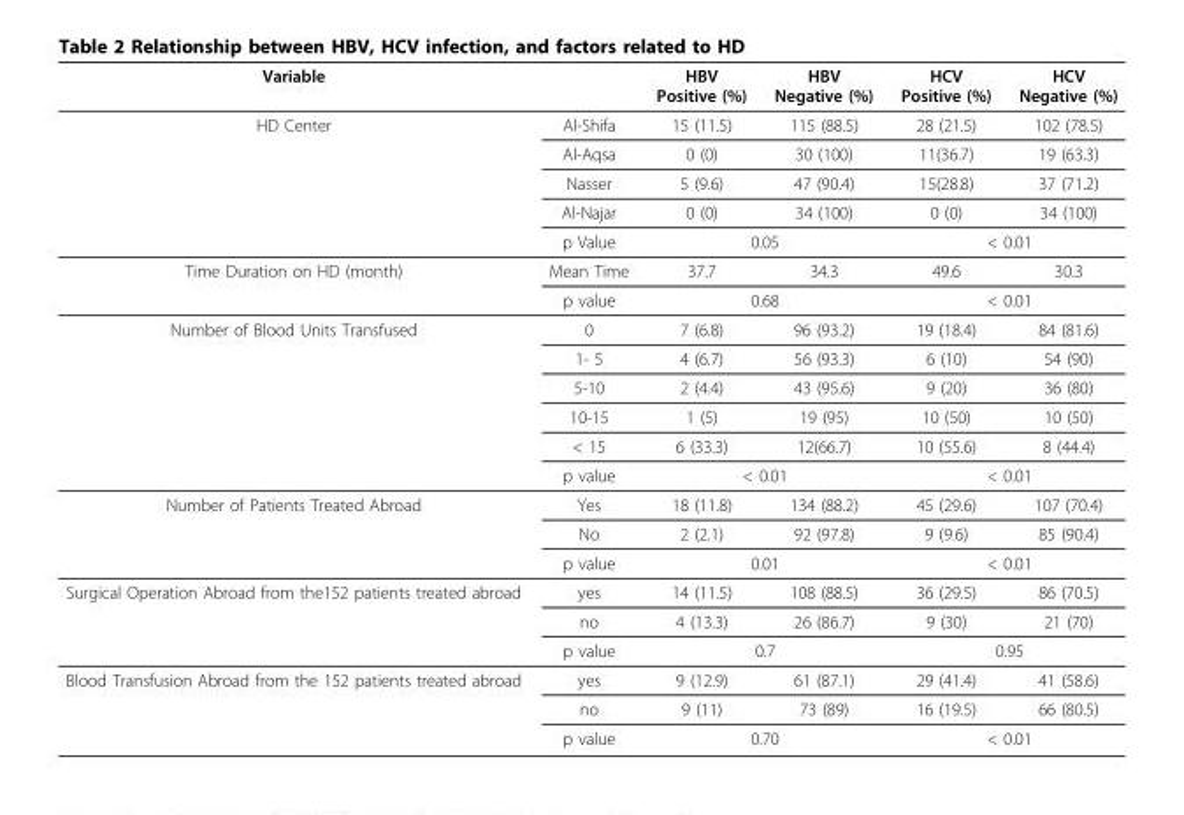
<table><thead><tr><td>Variable</td><td></td><td>HBV Positive (%)</td><td>HBV Negative (%)</td><td>HCV Positive (%)</td><td>HCV Negative (%)</td></tr></thead><tbody><tr><td rowspan="5">HD Center</td><td>Al-Shifa</td><td>15 (11.5)</td><td>115 (88.5)</td><td>28 (21.5)</td><td>102 (78.5)</td></tr><tr><td>Al-Aqsa</td><td>0 (0)</td><td>30 (100)</td><td>11(36.7)</td><td>19 (63.3)</td></tr><tr><td>Nasser</td><td>5 (9.6)</td><td>47 (90.4)</td><td>15(28.8)</td><td>37 (71.2)</td></tr><tr><td>Al-Najar</td><td>0 (0)</td><td>34 (100)</td><td>0 (0)</td><td>34 (100)</td></tr><tr><td>p Value</td><td colspan="2">0.05</td><td colspan="2">&lt; 0.01</td></tr><tr><td rowspan="2">Time Duration on HD (month)</td><td>Mean Time</td><td>37.7</td><td>34.3</td><td>49.6</td><td>30.3</td></tr><tr><td>p value</td><td colspan="2">0.68</td><td colspan="2">&lt; 0.01</td></tr><tr><td rowspan="6">Number of Blood Units Transfused</td><td>0</td><td>7 (6.8)</td><td>96 (93.2)</td><td>19 (18.4)</td><td>84 (81.6)</td></tr><tr><td>1- 5</td><td>4 (6.7)</td><td>56 (93.3)</td><td>6 (10)</td><td>54 (90)</td></tr><tr><td>5-10</td><td>2 (4.4)</td><td>43 (95.6)</td><td>9 (20)</td><td>36 (80)</td></tr><tr><td>10-15</td><td>1 (5)</td><td>19 (95)</td><td>10 (50)</td><td>10 (50)</td></tr><tr><td>&lt; 15</td><td>6 (33.3)</td><td>12(66.7)</td><td>10 (55.6)</td><td>8 (44.4)</td></tr><tr><td>p value</td><td colspan="2">&lt; 0.01</td><td colspan="2">&lt; 0.01</td></tr><tr><td rowspan="3">Number of Patients Treated Abroad</td><td>Yes</td><td>18 (11.8)</td><td>134 (88.2)</td><td>45 (29.6)</td><td>107 (70.4)</td></tr><tr><td>No</td><td>2 (2.1)</td><td>92 (97.8)</td><td>9 (9.6)</td><td>85 (90.4)</td></tr><tr><td>p value</td><td colspan="2">0.01</td><td colspan="2">&lt; 0.01</td></tr><tr><td rowspan="3">Surgical Operation Abroad from the152 patients treated abroad</td><td>yes</td><td>14 (11.5)</td><td>108 (88.5)</td><td>36 (29.5)</td><td>86 (70.5)</td></tr><tr><td>no</td><td>4 (13.3)</td><td>26 (86.7)</td><td>9 (30)</td><td>21 (70)</td></tr><tr><td>p value</td><td colspan="2">0.7</td><td colspan="2">0.95</td></tr><tr><td rowspan="3">Blood Transfusion Abroad from the 152 patients treated abroad</td><td>yes</td><td>9 (12.9)</td><td>61 (87.1)</td><td>29 (41.4)</td><td>41 (58.6)</td></tr><tr><td>no</td><td>9 (11)</td><td>73 (89)</td><td>16 (19.5)</td><td>66 (80.5)</td></tr><tr><td>p value</td><td colspan="2">0.70</td><td colspan="2">&lt; 0.01</td></tr></tbody></table>